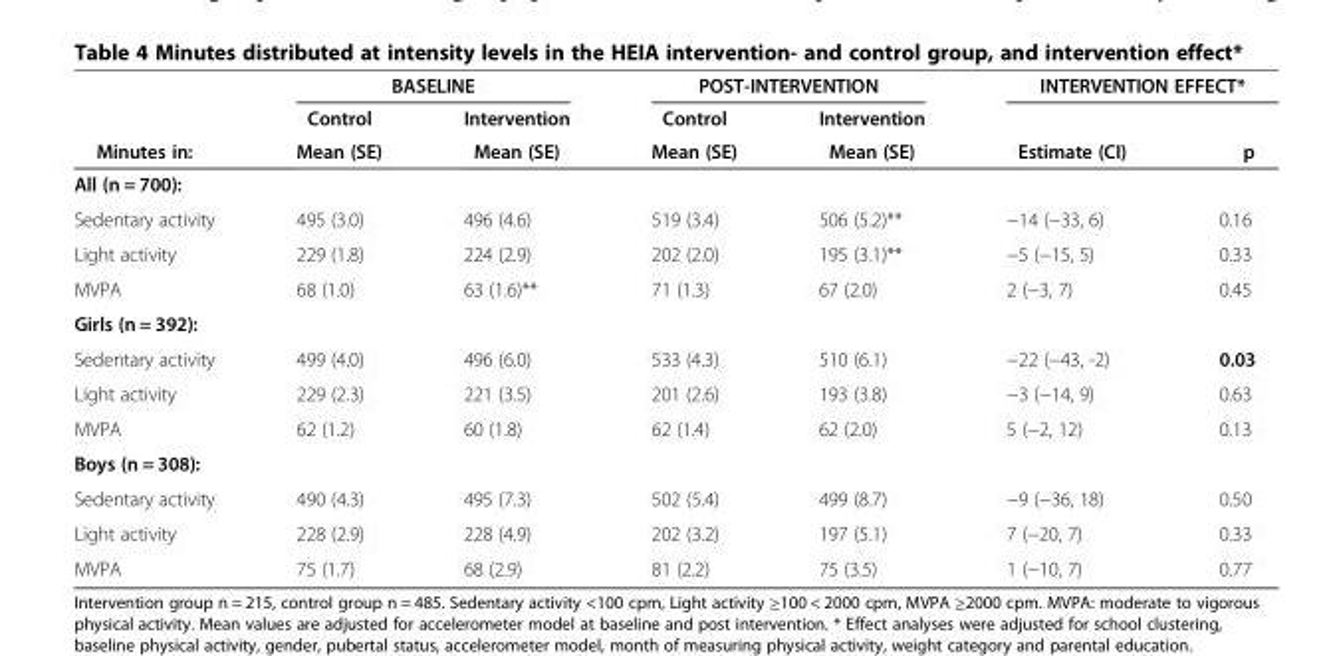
<table><thead><tr><td rowspan="3">Minutes in:</td><td colspan="2">BASELINE</td><td colspan="2">POST-INTERVENTION</td><td colspan="2">INTERVENTION EFFECT*</td></tr><tr><td rowspan="2">Control Mean (SE)</td><td rowspan="2">Intervention Mean (SE)</td><td rowspan="2">Control Mean (SE)</td><td rowspan="2">Intervention Mean (SE)</td><td rowspan="2">Estimate (CI)</td><td rowspan="2">p</td></tr><tr></tr></thead><tbody><tr><td colspan="7">All (n = 700):</td></tr><tr><td>Sedentary activity</td><td>495 (3.0)</td><td>496 (4.6)</td><td>519 (3.4)</td><td>506 (5.2)**</td><td>−14 (−33, 6)</td><td>0.16</td></tr><tr><td>Light activity</td><td>229 (1.8)</td><td>224 (2.9)</td><td>202 (2.0)</td><td>195 (3.1)**</td><td>−5 (−15, 5)</td><td>0.33</td></tr><tr><td>MVPA</td><td>68 (1.0)</td><td>63 (1.6)**</td><td>71 (1.3)</td><td>67 (2.0)</td><td>2 (−3, 7)</td><td>0.45</td></tr><tr><td colspan="7">Girls (n = 392):</td></tr><tr><td>Sedentary activity</td><td>499 (4.0)</td><td>496 (6.0)</td><td>533 (4.3)</td><td>510 (6.1)</td><td>−22 (−43, -2)</td><td>0.03</td></tr><tr><td>Light activity</td><td>229 (2.3)</td><td>221 (3.5)</td><td>201 (2.6)</td><td>193 (3.8)</td><td>−3 (−14, 9)</td><td>0.63</td></tr><tr><td>MVPA</td><td>62 (1.2)</td><td>60 (1.8)</td><td>62 (1.4)</td><td>62 (2.0)</td><td>5 (−2, 12)</td><td>0.13</td></tr><tr><td colspan="7">Boys (n = 308):</td></tr><tr><td>Sedentary activity</td><td>490 (4.3)</td><td>495 (7.3)</td><td>502 (5.4)</td><td>499 (8.7)</td><td>−9 (−36, 18)</td><td>0.50</td></tr><tr><td>Light activity</td><td>228 (2.9)</td><td>228 (4.9)</td><td>202 (3.2)</td><td>197 (5.1)</td><td>7 (−20, 7)</td><td>0.33</td></tr><tr><td>MVPA</td><td>75 (1.7)</td><td>68 (2.9)</td><td>81 (2.2)</td><td>75 (3.5)</td><td>1 (−10, 7)</td><td>0.77</td></tr></tbody></table>